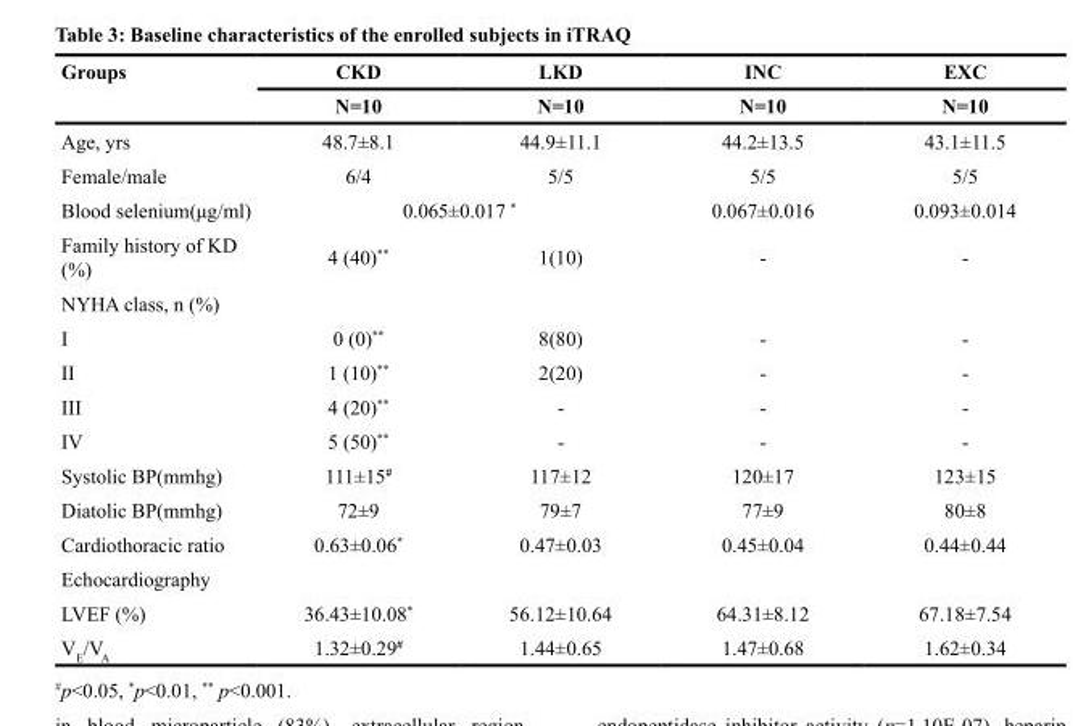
<table><thead><tr><td rowspan="2">Groups</td><td rowspan="2">CKD N=10</td><td rowspan="2">LKD N=10</td><td rowspan="2">INC N=10</td><td rowspan="2">EXC N=10</td></tr><tr></tr></thead><tbody><tr><td>Age, yrs</td><td>48.7±8.1</td><td>44.9±11.1</td><td>44.2±13.5</td><td>43.1±11.5</td></tr><tr><td>Female/male</td><td>6/4</td><td>5/5</td><td>5/5</td><td>5/5</td></tr><tr><td>Blood selenium(μg/ml)</td><td colspan="2">0.065±0.017 *</td><td>0.067±0.016</td><td>0.093±0.014</td></tr><tr><td>Family history of KD (%)</td><td>4 (40)**</td><td>1(10)</td><td>-</td><td>-</td></tr><tr><td colspan="5">NYHA class, n (%)</td></tr><tr><td>I</td><td>0 (0)**</td><td>8(80)</td><td>-</td><td>-</td></tr><tr><td>II</td><td>1 (10)**</td><td>2(20)</td><td>-</td><td>-</td></tr><tr><td>III</td><td>4 (20)**</td><td>-</td><td>-</td><td>-</td></tr><tr><td>IV</td><td>5 (50)**</td><td>-</td><td>-</td><td>-</td></tr><tr><td>Systolic BP(mmhg)</td><td>111±15<sup>#</sup></td><td>117±12</td><td>120±17</td><td>123±15</td></tr><tr><td>Diatolic BP(mmhg)</td><td>72±9</td><td>79±7</td><td>77±9</td><td>80±8</td></tr><tr><td>Cardiothoracic ratio</td><td>0.63±0.06*</td><td>0.47±0.03</td><td>0.45±0.04</td><td>0.44±0.44</td></tr><tr><td colspan="5">Echocardiography</td></tr><tr><td>LVEF (%)</td><td>36.43±10.08*</td><td>56.12±10.64</td><td>64.31±8.12</td><td>67.18±7.54</td></tr><tr><td>V<sub>E</sub>/V<sub>A</sub></td><td>1.32±0.29<sup>#</sup></td><td>1.44±0.65</td><td>1.47±0.68</td><td>1.62±0.34</td></tr></tbody></table>